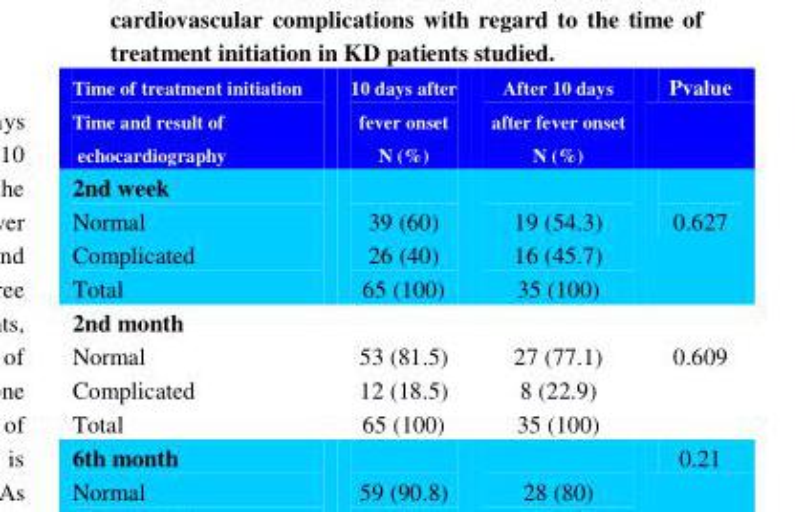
<table><tbody><tr><td>Time of treatment initiation Time and result of echocardiography</td><td>10 days after fever onset N (%)</td><td>After 10 days after fever onset N (%)</td><td>Pvalue</td></tr><tr><td colspan="4">2nd week</td></tr><tr><td>Normal Complicated Total</td><td>39 (60) 26 (40) 65 (100)</td><td>19 (54.3) 16 (45.7) 35 (100)</td><td>0.627</td></tr><tr><td colspan="4">2nd month</td></tr><tr><td>Normal Complicated Total</td><td>53 (81.5) 12 (18.5) 65 (100)</td><td>27 (77.1) 8 (22.9) 35 (100)</td><td>0.609</td></tr></tbody></table>